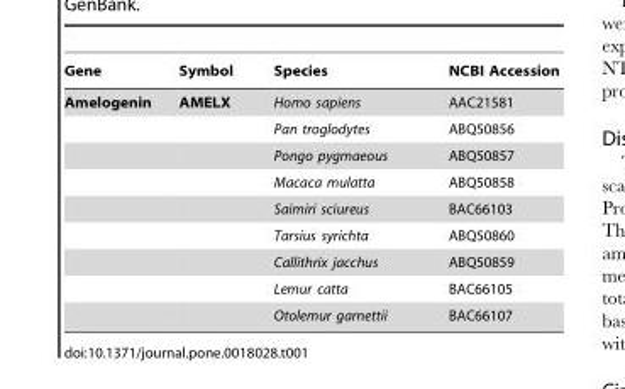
<table><thead><tr><td>Gene</td><td>Symbol</td><td>Species</td><td>NCBI Accession</td></tr></thead><tbody><tr><td rowspan="9">Amelogenin</td><td>AMELX</td><td>Homo sapiens</td><td>AAC21581</td></tr><tr><td></td><td>Pan troglodytes</td><td>ABQ50856</td></tr><tr><td></td><td>Pongo pygmaeous</td><td>ABQ50857</td></tr><tr><td></td><td>Macaca mulatta</td><td>ABQ50858</td></tr><tr><td></td><td>Saimiri sciureus</td><td>BAC66103</td></tr><tr><td></td><td>Tarsius syrichta</td><td>ABQ50860</td></tr><tr><td></td><td>Callithrix jacchus</td><td>ABQ50859</td></tr><tr><td></td><td>Lemur catta</td><td>BAC66105</td></tr><tr><td></td><td>Otolemur garnettii</td><td>BAC66107</td></tr></tbody></table>